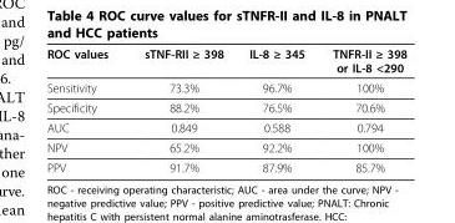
<table><thead><tr><td>ROC values</td><td>sTNF-RII ≥ 398</td><td>IL-8 ≥ 345</td><td>TNFR-II ≥ 398 or IL-8 &lt;290</td></tr></thead><tbody><tr><td>Sensitivity</td><td>73.3%</td><td>96.7%</td><td>100%</td></tr><tr><td>Specificity</td><td>88.2%</td><td>76.5%</td><td>70.6%</td></tr><tr><td>AUC</td><td>0.849</td><td>0.588</td><td>0.794</td></tr><tr><td>NPV</td><td>65.2%</td><td>92.2%</td><td>100%</td></tr><tr><td>PPV</td><td>91.7%</td><td>87.9%</td><td>85.7%</td></tr></tbody></table>